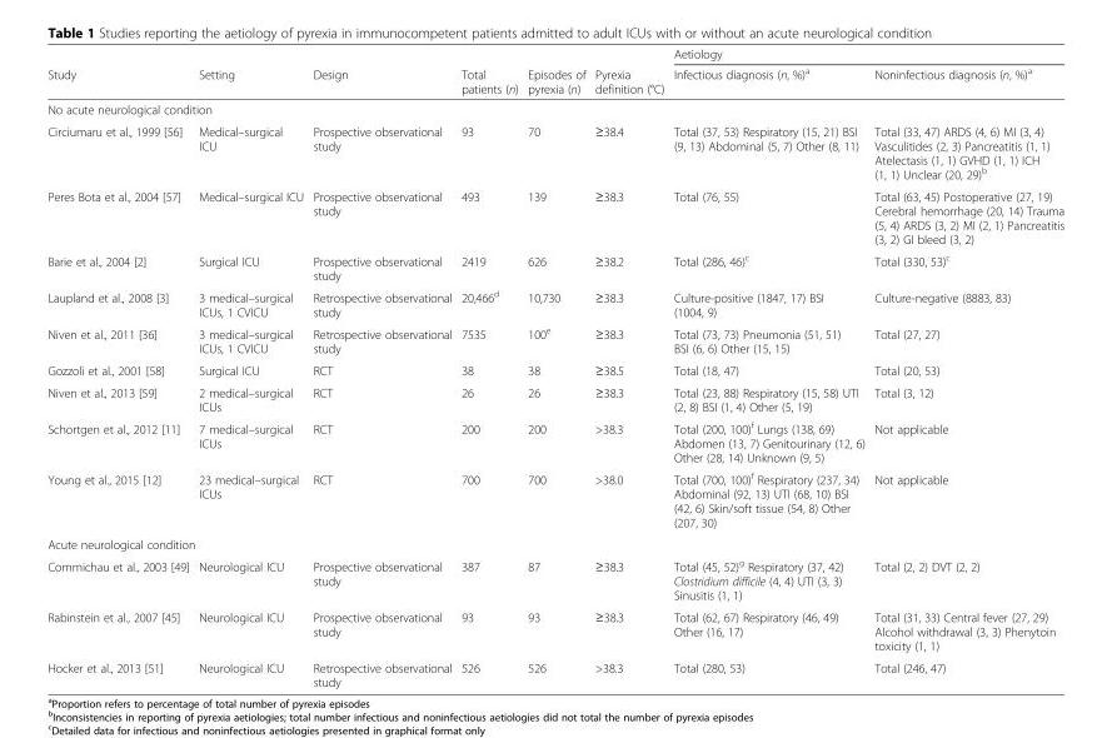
<table><thead><tr><td rowspan="2">Study</td><td rowspan="2">Setting</td><td rowspan="2">Design</td><td rowspan="2">Total patients (n)</td><td rowspan="2">Episodes of pyrexia (n)</td><td rowspan="2">Pyrexia definition (°C)</td><td colspan="2">Aetiology</td></tr><tr><td>Infectious diagnosis (n, %)<sup>a</sup></td><td>Noninfectious diagnosis (n, %)<sup>a</sup></td></tr></thead><tbody><tr><td colspan="8">No acute neurological condition</td></tr><tr><td>Circiumaru et al., 1999 [56]</td><td>Medical–surgical ICU</td><td>Prospective observational study</td><td>93</td><td>70</td><td>≥38.4</td><td>Total (37, 53) Respiratory (15, 21) BSI (9, 13) Abdominal (5, 7) Other (8, 11)</td><td>Total (33, 47) ARDS (4, 6) MI (3, 4) Vasculitides (2, 3) Pancreatitis (1, 1) Atelectasis (1, 1) GVHD (1, 1) ICH (1, 1) Unclear (20, 29)<sup>b</sup></td></tr><tr><td>Peres Bota et al., 2004 [57]</td><td>Medical–surgical ICU</td><td>Prospective observational study</td><td>493</td><td>139</td><td>≥38.3</td><td>Total (76, 55)</td><td>Total (63, 45) Postoperative (27, 19) Cerebral hemorrhage (20, 14) Trauma (5, 4) ARDS (3, 2) MI (2, 1) Pancreatitis (3, 2) GI bleed (3, 2)</td></tr><tr><td>Barie et al., 2004 [2]</td><td>Surgical ICU</td><td>Prospective observational study</td><td>2419</td><td>626</td><td>≥38.2</td><td>Total (286, 46)<sup>c</sup></td><td>Total (330, 53)<sup>c</sup></td></tr><tr><td>Laupland et al., 2008 [3]</td><td>3 medical–surgical ICUs, 1 CVICU</td><td>Retrospective observational study</td><td>20,466<sup>d</sup></td><td>10,730</td><td>≥38.3</td><td>Culture-positive (1847, 17) BSI (1004, 9)</td><td>Culture-negative (8883, 83)</td></tr><tr><td>Niven et al., 2011 [36]</td><td>3 medical–surgical ICUs, 1 CVICU</td><td>Retrospective observational study</td><td>7535</td><td>100<sup>e</sup></td><td>≥38.3</td><td>Total (73, 73) Pneumonia (51, 51) BSI (6, 6) Other (15, 15)</td><td>Total (27, 27)</td></tr><tr><td>Gozzoli et al., 2001 [58]</td><td>Surgical ICU</td><td>RCT</td><td>38</td><td>38</td><td>≥38.5</td><td>Total (18, 47)</td><td>Total (20, 53)</td></tr><tr><td>Niven et al., 2013 [59]</td><td>2 medical–surgical ICUs</td><td>RCT</td><td>26</td><td>26</td><td>≥38.3</td><td>Total (23, 88) Respiratory (15, 58) UTI (2, 8) BSI (1, 4) Other (5, 19)</td><td>Total (3, 12)</td></tr><tr><td>Schortgen et al., 2012 [11]</td><td>7 medical–surgical ICUs</td><td>RCT</td><td>200</td><td>200</td><td>&gt;38.3</td><td>Total (200, 100)<sup>f</sup> Lungs (138, 69) Abdomen (13, 7) Genitourinary (12, 6) Other (28, 14) Unknown (9, 5)</td><td>Not applicable</td></tr><tr><td>Young et al., 2015 [12]</td><td>23 medical–surgical ICUs</td><td>RCT</td><td>700</td><td>700</td><td>&gt;38.0</td><td>Total (700, 100)<sup>f</sup> Respiratory (237, 34) Abdominal (92, 13) UTI (68, 10) BSI (42, 6) Skin/soft tissue (54, 8) Other (207, 30)</td><td>Not applicable</td></tr><tr><td colspan="8">Acute neurological condition</td></tr><tr><td>Commichau et al., 2003 [49]</td><td>Neurological ICU</td><td>Prospective observational study</td><td>387</td><td>87</td><td>≥38.3</td><td>Total (45, 52)<sup>g</sup> Respiratory (37, 42) Clostridium difficile (4, 4) UTI (3, 3) Sinusitis (1, 1)</td><td>Total (2, 2) DVT (2, 2)</td></tr><tr><td>Rabinstein et al., 2007 [45]</td><td>Neurological ICU</td><td>Prospective observational study</td><td>93</td><td>93</td><td>≥38.3</td><td>Total (62, 67) Respiratory (46, 49) Other (16, 17)</td><td>Total (31, 33) Central fever (27, 29) Alcohol withdrawal (3, 3) Phenytoin toxicity (1, 1)</td></tr><tr><td>Hocker et al., 2013 [51]</td><td>Neurological ICU</td><td>Retrospective observational study</td><td>526</td><td>526</td><td>&gt;38.3</td><td>Total (280, 53)</td><td>Total (246, 47)</td></tr></tbody></table>